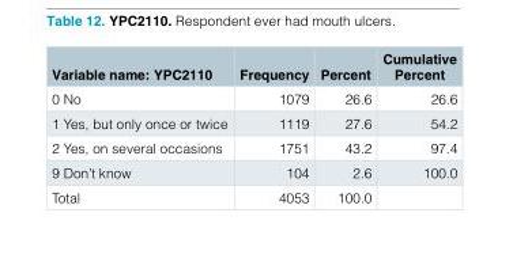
<table><thead><tr><td>Variable name: YPC2110</td><td>Frequency</td><td>Percent</td><td>Cumulative Percent</td></tr></thead><tbody><tr><td>0 No</td><td>1079</td><td>26.6</td><td>26.6</td></tr><tr><td>1 Yes, but only once or twice</td><td>1119</td><td>27.6</td><td>54.2</td></tr><tr><td>2 Yes, on several occasions</td><td>1751</td><td>43.2</td><td>97.4</td></tr><tr><td>9 Don’t know</td><td>104</td><td>2.6</td><td>100.0</td></tr><tr><td>Total</td><td>4053</td><td>100.0</td><td></td></tr></tbody></table>